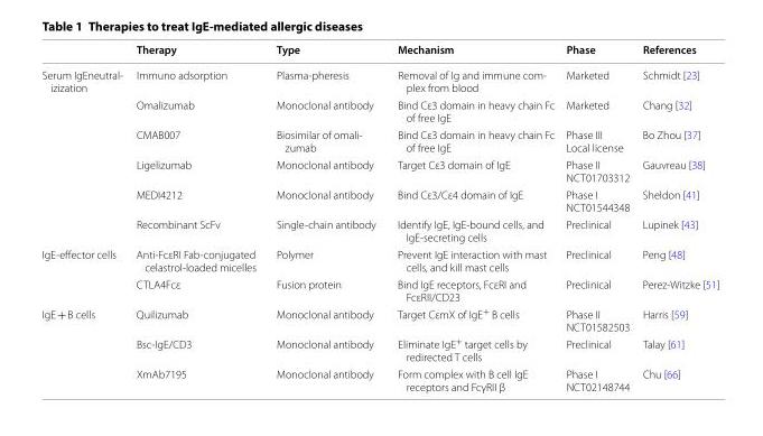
<table><thead><tr><td></td><td>Therapy</td><td>Type</td><td>Mechanism</td><td>Phase</td><td>References</td></tr></thead><tbody><tr><td rowspan="6">Serum IgEneutral- izization</td><td>Immuno adsorption</td><td>Plasma-pheresis</td><td>Removal of Ig and immune com- plex from blood</td><td>Marketed</td><td>Schmidt [23]</td></tr><tr><td>Omalizumab</td><td>Monoclonal antibody</td><td>Bind Cε3 domain in heavy chain Fc of free IgE</td><td>Marketed</td><td>Chang [32]</td></tr><tr><td>CMAB007</td><td>Biosimilar of omali- zumab</td><td>Bind Cε3 domain in heavy chain Fc of free IgE</td><td>Phase III Local license</td><td>Bo Zhou [37]</td></tr><tr><td>Ligelizumab</td><td>Monoclonal antibody</td><td>Target Cε3 domain of IgE</td><td>Phase II NCT01703312</td><td>Gauvreau [38]</td></tr><tr><td>MEDI4212</td><td>Monoclonal antibody</td><td>Bind Cε3/Cε4 domain of IgE</td><td>Phase I NCT01544348</td><td>Sheldon [41]</td></tr><tr><td>Recombinant ScFv</td><td>Single-chain antibody</td><td>Identify IgE, IgE-bound cells, and IgE-secreting cells</td><td>Preclinical</td><td>Lupinek [43]</td></tr><tr><td rowspan="2">IgE-effector cells</td><td>Anti-FcεRI Fab-conjugated celastrol-loaded micelles</td><td>Polymer</td><td>Prevent IgE interaction with mast cells, and kill mast cells</td><td>Preclinical</td><td>Peng [48]</td></tr><tr><td>CTLA4Fcε</td><td>Fusion protein</td><td>Bind IgE receptors, FcεRI and FcεRII/CD23</td><td>Preclinical</td><td>Perez-Witzke [51]</td></tr><tr><td rowspan="3">IgE + B cells</td><td>Quilizumab</td><td>Monoclonal antibody</td><td>Target CεmX of IgE<sup>+</sup> B cells</td><td>Phase II NCT01582503</td><td>Harris [59]</td></tr><tr><td>Bsc-IgE/CD3</td><td>Monoclonal antibody</td><td>Eliminate IgE<sup>+</sup> target cells by redirected T cells</td><td>Preclinical</td><td>Talay [61]</td></tr><tr><td>XmAb7195</td><td>Monoclonal antibody</td><td>Form complex with B cell IgE receptors and FcγRII β</td><td>Phase I NCT02148744</td><td>Chu [66]</td></tr></tbody></table>